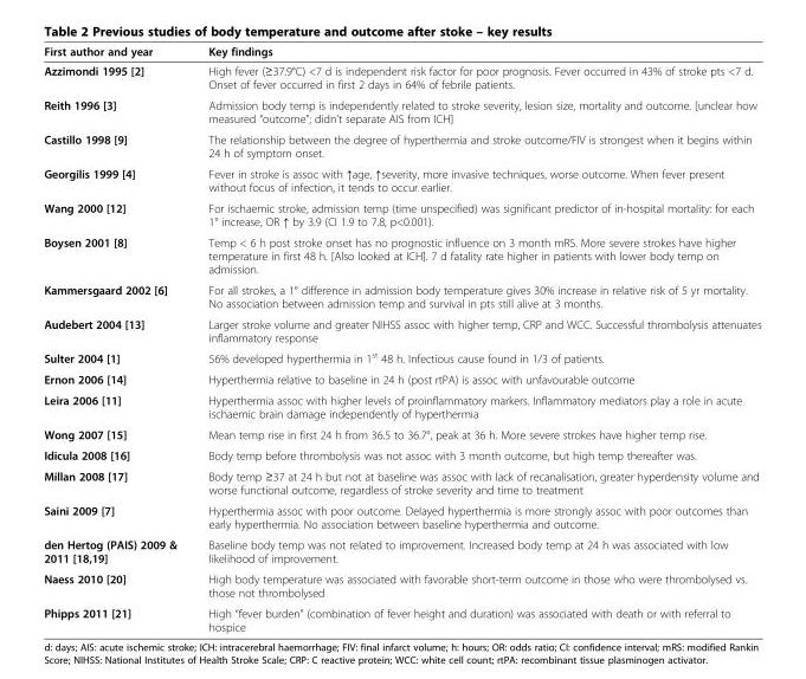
<table><thead><tr><td>First author and year</td><td>Key findings</td></tr></thead><tbody><tr><td>Azzimondi 1995 [2]</td><td>High fever (≥37.9°C) &lt;7 d is independent risk factor for poor prognosis. Fever occurred in 43% of stroke pts &lt;7 d. Onset of fever occurred in first 2 days in 64% of febrile patients.</td></tr><tr><td>Reith 1996 [3]</td><td>Admission body temp is independently related to stroke severity, lesion size, mortality and outcome. [unclear how measured “outcome”; didn’t separate AIS from ICH]</td></tr><tr><td>Castillo 1998 [9]</td><td>The relationship between the degree of hyperthermia and stroke outcome/FIV is strongest when it begins within 24 h of symptom onset.</td></tr><tr><td>Georgilis 1999 [4]</td><td>Fever in stroke is assoc with ↑age, ↑severity, more invasive techniques, worse outcome. When fever present without focus of infection, it tends to occur earlier.</td></tr><tr><td>Wang 2000 [12]</td><td>For ischaemic stroke, admission temp (time unspecified) was significant predictor of in-hospital mortality: for each 1° increase, OR ↑ by 3.9 (CI 1.9 to 7.8, p&lt;0.001).</td></tr><tr><td>Boysen 2001 [8]</td><td>Temp &lt; 6 h post stroke onset has no prognostic influence on 3 month mRS. More severe strokes have higher temperature in first 48 h. [Also looked at ICH]. 7 d fatality rate higher in patients with lower body temp on admission.</td></tr><tr><td>Kammersgaard 2002 [6]</td><td>For all strokes, a 1° difference in admission body temperature gives 30% increase in relative risk of 5 yr mortality. No association between admission temp and survival in pts still alive at 3 months.</td></tr><tr><td>Audebert 2004 [13]</td><td>Larger stroke volume and greater NIHSS assoc with higher temp, CRP and WCC. Successful thrombolysis attenuates inflammatory response</td></tr><tr><td>Sulter 2004 [1]</td><td>56% developed hyperthermia in 1<sup>st</sup> 48 h. Infectious cause found in 1/3 of patients.</td></tr><tr><td>Ernon 2006 [14]</td><td>Hyperthermia relative to baseline in 24 h (post rtPA) is assoc with unfavourable outcome</td></tr><tr><td>Leira 2006 [11]</td><td>Hyperthermia assoc with higher levels of proinflammatory markers. Inflammatory mediators play a role in acute ischaemic brain damage independently of hyperthermia</td></tr><tr><td>Wong 2007 [15]</td><td>Mean temp rise in first 24 h from 36.5 to 36.7°, peak at 36 h. More severe strokes have higher temp rise.</td></tr><tr><td>Idicula 2008 [16]</td><td>Body temp before thrombolysis was not assoc with 3 month outcome, but high temp thereafter was.</td></tr><tr><td>Millan 2008 [17]</td><td>Body temp ≥37 at 24 h but not at baseline was assoc with lack of recanalisation, greater hyperdensity volume and worse functional outcome, regardless of stroke severity and time to treatment</td></tr><tr><td>Saini 2009 [7]</td><td>Hyperthermia assoc with poor outcome. Delayed hyperthermia is more strongly assoc with poor outcomes than early hyperthermia. No association between baseline hyperthermia and outcome.</td></tr><tr><td>den Hertog (PAIS) 2009 &amp; 2011 [18,19]</td><td>Baseline body temp was not related to improvement. Increased body temp at 24 h was associated with low likelihood of improvement.</td></tr><tr><td>Naess 2010 [20]</td><td>High body temperature was associated with favorable short-term outcome in those who were thrombolysed vs. those not thrombolysed</td></tr><tr><td>Phipps 2011 [21]</td><td>High “fever burden” (combination of fever height and duration) was associated with death or with referral to hospice</td></tr></tbody></table>